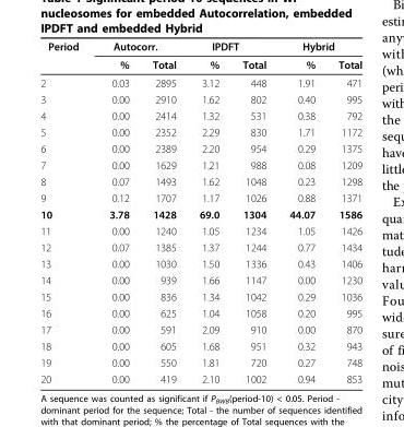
<table><thead><tr><td rowspan="2">Period</td><td colspan="2">Autocorr.</td><td colspan="2">IPDFT</td><td colspan="2">Hybrid</td></tr><tr><td>%</td><td>Total</td><td>%</td><td>Total</td><td>%</td><td>Total</td></tr></thead><tbody><tr><td>2</td><td>0.03</td><td>2895</td><td>3.12</td><td>448</td><td>1.91</td><td>471</td></tr><tr><td>3</td><td>0.00</td><td>2910</td><td>1.62</td><td>802</td><td>0.40</td><td>995</td></tr><tr><td>4</td><td>0.00</td><td>2414</td><td>1.32</td><td>531</td><td>0.38</td><td>792</td></tr><tr><td>5</td><td>0.00</td><td>2352</td><td>2.29</td><td>830</td><td>1.71</td><td>1172</td></tr><tr><td>6</td><td>0.00</td><td>2389</td><td>2.20</td><td>954</td><td>0.29</td><td>1375</td></tr><tr><td>7</td><td>0.00</td><td>1629</td><td>1.21</td><td>988</td><td>0.08</td><td>1209</td></tr><tr><td>8</td><td>0.07</td><td>1493</td><td>1.62</td><td>1048</td><td>0.23</td><td>1298</td></tr><tr><td>9</td><td>0.12</td><td>1707</td><td>1.17</td><td>1026</td><td>0.88</td><td>1371</td></tr><tr><td>10</td><td>3.78</td><td>1428</td><td>69.0</td><td>1304</td><td>44.07</td><td>1586</td></tr><tr><td>11</td><td>0.00</td><td>1240</td><td>1.05</td><td>1234</td><td>1.05</td><td>1426</td></tr><tr><td>12</td><td>0.07</td><td>1385</td><td>1.37</td><td>1244</td><td>0.77</td><td>1434</td></tr><tr><td>13</td><td>0.00</td><td>1030</td><td>1.50</td><td>1336</td><td>0.43</td><td>1406</td></tr><tr><td>14</td><td>0.00</td><td>939</td><td>1.66</td><td>1147</td><td>0.00</td><td>1230</td></tr><tr><td>15</td><td>0.00</td><td>836</td><td>1.34</td><td>1042</td><td>0.29</td><td>1036</td></tr><tr><td>16</td><td>0.00</td><td>625</td><td>1.04</td><td>1058</td><td>0.20</td><td>995</td></tr><tr><td>17</td><td>0.00</td><td>591</td><td>2.09</td><td>910</td><td>0.00</td><td>870</td></tr><tr><td>18</td><td>0.00</td><td>605</td><td>1.68</td><td>951</td><td>0.32</td><td>943</td></tr><tr><td>19</td><td>0.00</td><td>550</td><td>1.81</td><td>720</td><td>0.27</td><td>748</td></tr><tr><td>20</td><td>0.00</td><td>419</td><td>2.10</td><td>1002</td><td>0.94</td><td>853</td></tr></tbody></table>